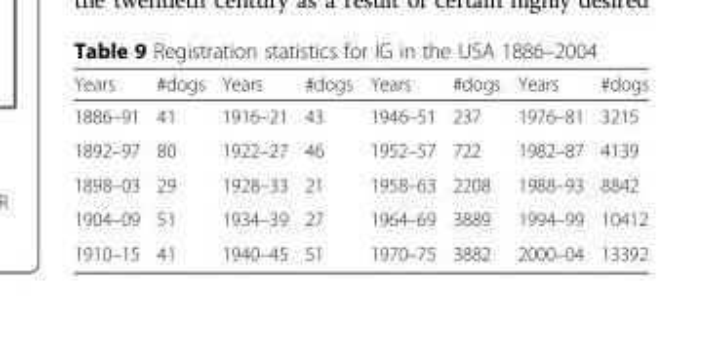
<table><thead><tr><td>Years</td><td>#dogs</td><td>Years</td><td>#dogs</td><td>Years</td><td>#dogs</td><td>Years</td><td>#dogs</td></tr></thead><tbody><tr><td>1886–91</td><td>41</td><td>1916–21</td><td>43</td><td>1946–51</td><td>237</td><td>1976–81</td><td>3215</td></tr><tr><td>1892–97</td><td>80</td><td>1922–27</td><td>46</td><td>1952–57</td><td>722</td><td>1982–87</td><td>4139</td></tr><tr><td>1898–03</td><td>29</td><td>1928–33</td><td>21</td><td>1958–63</td><td>2208</td><td>1988–93</td><td>8842</td></tr><tr><td>1904–09</td><td>51</td><td>1934–39</td><td>27</td><td>1964–69</td><td>3889</td><td>1994–99</td><td>10412</td></tr><tr><td>1910–15</td><td>41</td><td>1940–45</td><td>51</td><td>1970–75</td><td>3882</td><td>2000–04</td><td>13392</td></tr></tbody></table>